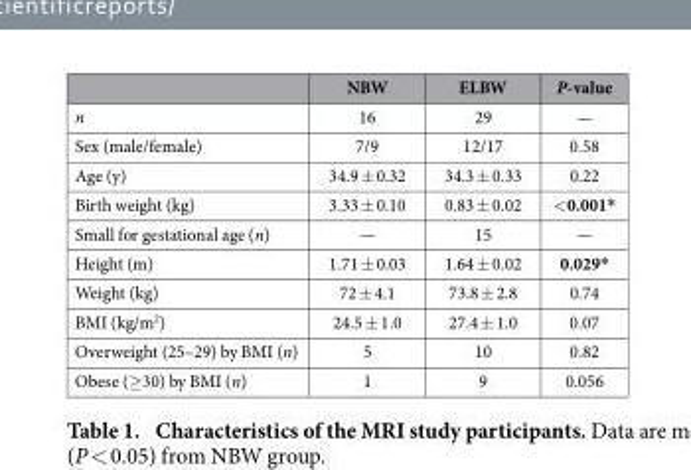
<table><thead><tr><td></td><td>NBW</td><td>ELBW</td><td>P-value</td></tr></thead><tbody><tr><td>n</td><td>16</td><td>29</td><td>—</td></tr><tr><td>Sex (male/female)</td><td>7/9</td><td>12/17</td><td>0.58</td></tr><tr><td>Age (y)</td><td>34.9 ± 0.32</td><td>34.3 ± 0.33</td><td>0.22</td></tr><tr><td>Birth weight (kg)</td><td>3.33 ± 0.10</td><td>0.83 ± 0.02</td><td>&lt; 0.001*</td></tr><tr><td>Small for gestational age (n)</td><td>—</td><td>15</td><td>—</td></tr><tr><td>Height (m)</td><td>1.71 ± 0.03</td><td>1.64 ± 0.02</td><td>0.029*</td></tr><tr><td>Weight (kg)</td><td>72 ± 4.1</td><td>73.8 ± 2.8</td><td>0.74</td></tr><tr><td>BMI (kg/m<sup>2</sup>)</td><td>24.5 ± 1.0</td><td>27.4 ± 1.0</td><td>0.07</td></tr><tr><td>Overweight (25–29) by BMI (n)</td><td>5</td><td>10</td><td>0.82</td></tr><tr><td>Obese (≥ 30) by BMI (n)</td><td>1</td><td>9</td><td>0.056</td></tr></tbody></table>